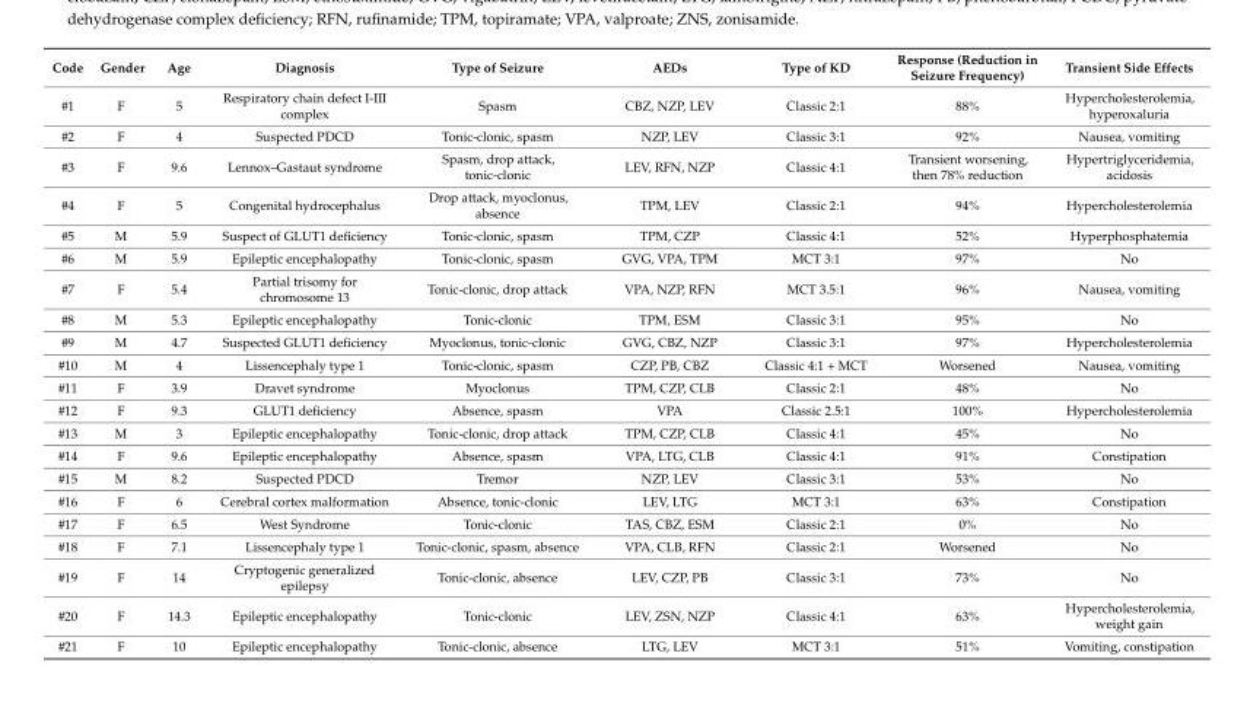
<table><thead><tr><td>Code</td><td>Gender</td><td>Age</td><td>Diagnosis</td><td>Type of Seizure</td><td>AEDs</td><td>Type of KD</td><td>Response (Reduction in Seizure Frequency)</td><td>Transient Side Effects</td></tr></thead><tbody><tr><td>#1</td><td>F</td><td>5</td><td>Respiratory chain defect I-III complex</td><td>Spasm</td><td>CBZ, NZP, LEV</td><td>Classic 2:1</td><td>88%</td><td>Hypercholesterolemia, hyperoxaluria</td></tr><tr><td>#2</td><td>F</td><td>4</td><td>Suspected PDCD</td><td>Tonic-clonic, spasm</td><td>NZP, LEV</td><td>Classic 3:1</td><td>92%</td><td>Nausea, vomiting</td></tr><tr><td>#3</td><td>F</td><td>9.6</td><td>Lennox–Gastaut syndrome</td><td>Spasm, drop attack, tonic-clonic</td><td>LEV, RFN, NZP</td><td>Classic 4:1</td><td>Transient worsening, then 78% reduction</td><td>Hypertriglyceridemia, acidosis</td></tr><tr><td>#4</td><td>F</td><td>5</td><td>Congenital hydrocephalus</td><td>Drop attack, myoclonus, absence</td><td>TPM, LEV</td><td>Classic 2:1</td><td>94%</td><td>Hypercholesterolemia</td></tr><tr><td>#5</td><td>M</td><td>5.9</td><td>Suspect of GLUT1 deficiency</td><td>Tonic-clonic, spasm</td><td>TPM, CZP</td><td>Classic 4:1</td><td>52%</td><td>Hyperphosphatemia</td></tr><tr><td>#6</td><td>M</td><td>5.9</td><td>Epileptic encephalopathy</td><td>Tonic-clonic, spasm</td><td>GVG, VPA, TPM</td><td>MCT 3:1</td><td>97%</td><td>No</td></tr><tr><td>#7</td><td>F</td><td>5.4</td><td>Partial trisomy for chromosome 13</td><td>Tonic-clonic, drop attack</td><td>VPA, NZP, RFN</td><td>MCT 3.5:1</td><td>96%</td><td>Nausea, vomiting</td></tr><tr><td>#8</td><td>M</td><td>5.3</td><td>Epileptic encephalopathy</td><td>Tonic-clonic</td><td>TPM, ESM</td><td>Classic 3:1</td><td>95%</td><td>No</td></tr><tr><td>#9</td><td>M</td><td>4.7</td><td>Suspected GLUT1 deficiency</td><td>Myoclonus, tonic-clonic</td><td>GVG, CBZ, NZP</td><td>Classic 3:1</td><td>97%</td><td>Hypercholesterolemia</td></tr><tr><td>#10</td><td>M</td><td>4</td><td>Lissencephaly type 1</td><td>Tonic-clonic, spasm</td><td>CZP, PB, CBZ</td><td>Classic 4:1 + MCT</td><td>Worsened</td><td>Nausea, vomiting</td></tr><tr><td>#11</td><td>F</td><td>3.9</td><td>Dravet syndrome</td><td>Myoclonus</td><td>TPM, CZP, CLB</td><td>Classic 2:1</td><td>48%</td><td>No</td></tr><tr><td>#12</td><td>F</td><td>9.3</td><td>GLUT1 deficiency</td><td>Absence, spasm</td><td>VPA</td><td>Classic 2.5:1</td><td>100%</td><td>Hypercholesterolemia</td></tr><tr><td>#13</td><td>M</td><td>3</td><td>Epileptic encephalopathy</td><td>Tonic-clonic, drop attack</td><td>TPM, CZP, CLB</td><td>Classic 4:1</td><td>45%</td><td>No</td></tr><tr><td>#14</td><td>F</td><td>9.6</td><td>Epileptic encephalopathy</td><td>Absence, spasm</td><td>VPA, LTG, CLB</td><td>Classic 4:1</td><td>91%</td><td>Constipation</td></tr><tr><td>#15</td><td>M</td><td>8.2</td><td>Suspected PDCD</td><td>Tremor</td><td>NZP, LEV</td><td>Classic 3:1</td><td>53%</td><td>No</td></tr><tr><td>#16</td><td>F</td><td>6</td><td>Cerebral cortex malformation</td><td>Absence, tonic-clonic</td><td>LEV, LTG</td><td>MCT 3:1</td><td>63%</td><td>Constipation</td></tr><tr><td>#17</td><td>F</td><td>6.5</td><td>West Syndrome</td><td>Tonic-clonic</td><td>TAS, CBZ, ESM</td><td>Classic 2:1</td><td>0%</td><td>No</td></tr><tr><td>#18</td><td>F</td><td>7.1</td><td>Lissencephaly type 1</td><td>Tonic-clonic, spasm, absence</td><td>VPA, CLB, RFN</td><td>Classic 2:1</td><td>Worsened</td><td>No</td></tr><tr><td>#19</td><td>F</td><td>14</td><td>Cryptogenic generalized epilepsy</td><td>Tonic-clonic, absence</td><td>LEV, CZP, PB</td><td>Classic 3:1</td><td>73%</td><td>No</td></tr><tr><td>#20</td><td>F</td><td>14.3</td><td>Epileptic encephalopathy</td><td>Tonic-clonic</td><td>LEV, ZSN, NZP</td><td>Classic 4:1</td><td>63%</td><td>Hypercholesterolemia, weight gain</td></tr><tr><td>#21</td><td>F</td><td>10</td><td>Epileptic encephalopathy</td><td>Tonic-clonic, absence</td><td>LTG, LEV</td><td>MCT 3:1</td><td>51%</td><td>Vomiting, constipation</td></tr></tbody></table>